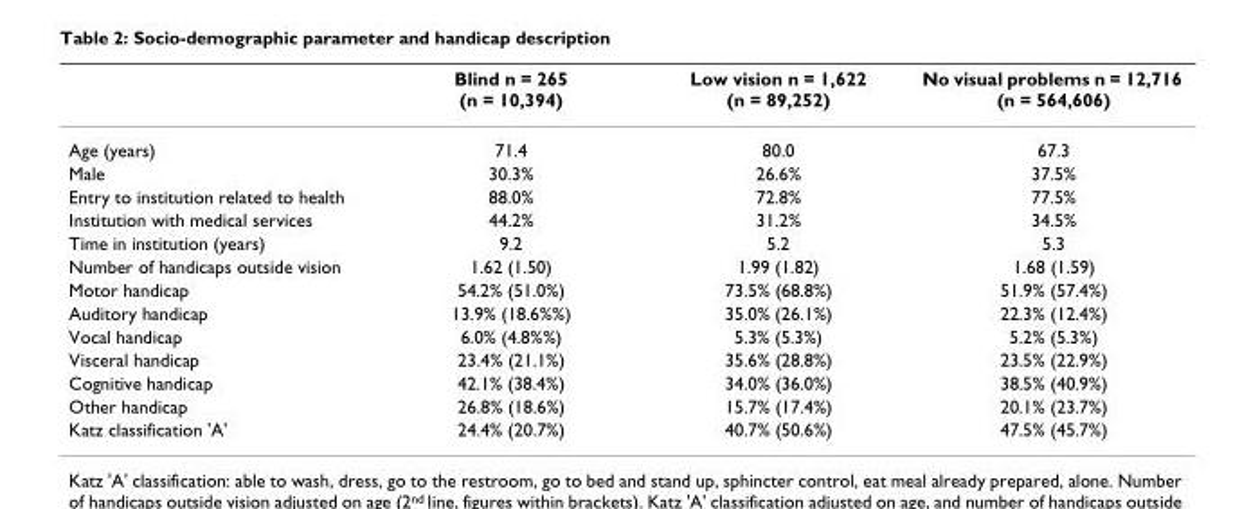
<table><thead><tr><td></td><td>Blind n = 265 (n = 10,394)</td><td>Low vision n = 1,622 (n = 89,252)</td><td>No visual problems n = 12,716 (n = 564,606)</td></tr></thead><tbody><tr><td>Age (years)</td><td>71.4</td><td>80.0</td><td>67.3</td></tr><tr><td>Male</td><td>30.3%</td><td>26.6%</td><td>37.5%</td></tr><tr><td>Entry to institution related to health</td><td>88.0%</td><td>72.8%</td><td>77.5%</td></tr><tr><td>Institution with medical services</td><td>44.2%</td><td>31.2%</td><td>34.5%</td></tr><tr><td>Time in institution (years)</td><td>9.2</td><td>5.2</td><td>5.3</td></tr><tr><td>Number of handicaps outside vision</td><td>1.62 (1.50)</td><td>1.99 (1.82)</td><td>1.68 (1.59)</td></tr><tr><td>Motor handicap</td><td>54.2% (51.0%)</td><td>73.5% (68.8%)</td><td>51.9% (57.4%)</td></tr><tr><td>Auditory handicap</td><td>13.9% (18.6%%)</td><td>35.0% (26.1%)</td><td>22.3% (12.4%)</td></tr><tr><td>Vocal handicap</td><td>6.0% (4.8%%)</td><td>5.3% (5.3%)</td><td>5.2% (5.3%)</td></tr><tr><td>Visceral handicap</td><td>23.4% (21.1%)</td><td>35.6% (28.8%)</td><td>23.5% (22.9%)</td></tr><tr><td>Cognitive handicap</td><td>42.1% (38.4%)</td><td>34.0% (36.0%)</td><td>38.5% (40.9%)</td></tr><tr><td>Other handicap</td><td>26.8% (18.6%)</td><td>15.7% (17.4%)</td><td>20.1% (23.7%)</td></tr><tr><td>Katz classification &#x27;A&#x27;</td><td>24.4% (20.7%)</td><td>40.7% (50.6%)</td><td>47.5% (45.7%)</td></tr></tbody></table>